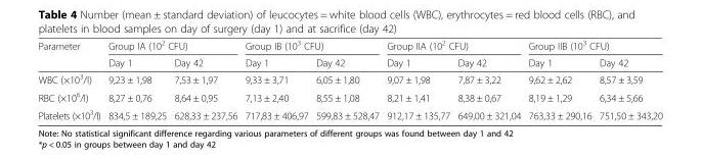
<table><thead><tr><td rowspan="2">Parameter</td><td colspan="2">Group IA (10<sup>2</sup> CFU)</td><td colspan="2">Group IB (10<sup>3</sup> CFU)</td><td colspan="2">Group IIA (10<sup>2</sup> CFU)</td><td colspan="2">Group IIB (10<sup>3</sup> CFU)</td></tr><tr><td>Day 1</td><td>Day 42</td><td>Day 1</td><td>Day 42</td><td>Day 1</td><td>Day 42</td><td>Day 1</td><td>Day 42</td></tr></thead><tbody><tr><td>WBC (×10<sup>3</sup>/l)</td><td>9,23 ± 1,98</td><td>7,53 ± 1,97</td><td>9,33 ± 3,71</td><td>6,05 ± 1,80</td><td>9,07 ± 1,98</td><td>7,87 ± 3,22</td><td>9,62 ± 2,62</td><td>8,57 ± 3,59</td></tr><tr><td>RBC (×10<sup>6</sup>/l)</td><td>8,27 ± 0,76</td><td>8,64 ± 0,95</td><td>7,13 ± 2,40</td><td>8,55 ± 1,08</td><td>8,21 ± 1,41</td><td>8,38 ± 0,67</td><td>8,19 ± 1,29</td><td>6,34 ± 5,66</td></tr><tr><td>Platelets (×10<sup>3</sup>/l)</td><td>834,5 ± 189,25</td><td>628,33 ± 237,56</td><td>717,83 ± 406,97</td><td>599,83 ± 528,47</td><td>912,17 ± 135,77</td><td>649,00 ± 321,04</td><td>763,33 ± 290,16</td><td>751,50 ± 343,20</td></tr></tbody></table>